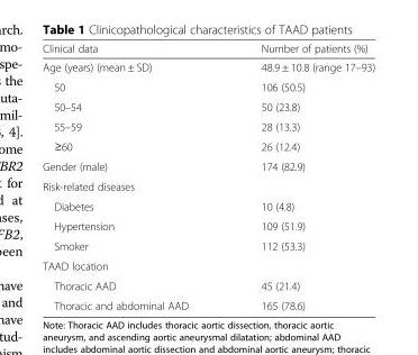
<table><thead><tr><td>Clinical data</td><td>Number of patients (%)</td></tr></thead><tbody><tr><td>Age (years) (mean ± SD)</td><td>48.9 ± 10.8 (range 17–93)</td></tr><tr><td>50</td><td>106 (50.5)</td></tr><tr><td>50–54</td><td>50 (23.8)</td></tr><tr><td>55–59</td><td>28 (13.3)</td></tr><tr><td>≥60</td><td>26 (12.4)</td></tr><tr><td>Gender (male)</td><td>174 (82.9)</td></tr><tr><td colspan="2">Risk-related diseases</td></tr><tr><td>Diabetes</td><td>10 (4.8)</td></tr><tr><td>Hypertension</td><td>109 (51.9)</td></tr><tr><td>Smoker</td><td>112 (53.3)</td></tr><tr><td colspan="2">TAAD location</td></tr><tr><td>Thoracic AAD</td><td>45 (21.4)</td></tr><tr><td>Thoracic and abdominal AAD</td><td>165 (78.6)</td></tr></tbody></table>